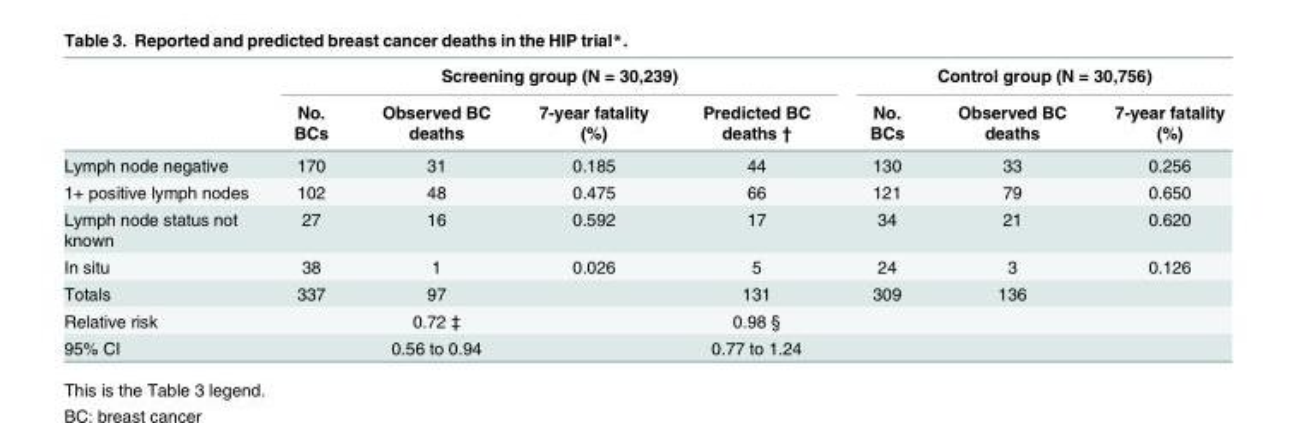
<table><thead><tr><td rowspan="2"></td><td colspan="4">Screening group (N = 30,239)</td><td colspan="3">Control group (N = 30,756)</td></tr><tr><td>No. BCs</td><td>Observed BC deaths</td><td>7-year fatality (%)</td><td>Predicted BC deaths †</td><td>No. BCs</td><td>Observed BC deaths</td><td>7-year fatality (%)</td></tr></thead><tbody><tr><td>Lymph node negative</td><td>170</td><td>31</td><td>0.185</td><td>44</td><td>130</td><td>33</td><td>0.256</td></tr><tr><td>1+ positive lymph nodes</td><td>102</td><td>48</td><td>0.475</td><td>66</td><td>121</td><td>79</td><td>0.650</td></tr><tr><td>Lymph node status not known</td><td>27</td><td>16</td><td>0.592</td><td>17</td><td>34</td><td>21</td><td>0.620</td></tr><tr><td>In situ</td><td>38</td><td>1</td><td>0.026</td><td>5</td><td>24</td><td>3</td><td>0.126</td></tr><tr><td>Totals</td><td>337</td><td>97</td><td></td><td>131</td><td>309</td><td>136</td><td></td></tr><tr><td>Relative risk</td><td></td><td>0.72 ‡</td><td></td><td>0.98 §</td><td></td><td></td><td></td></tr><tr><td>95% CI</td><td></td><td>0.56 to 0.94</td><td></td><td>0.77 to 1.24</td><td></td><td></td><td></td></tr></tbody></table>